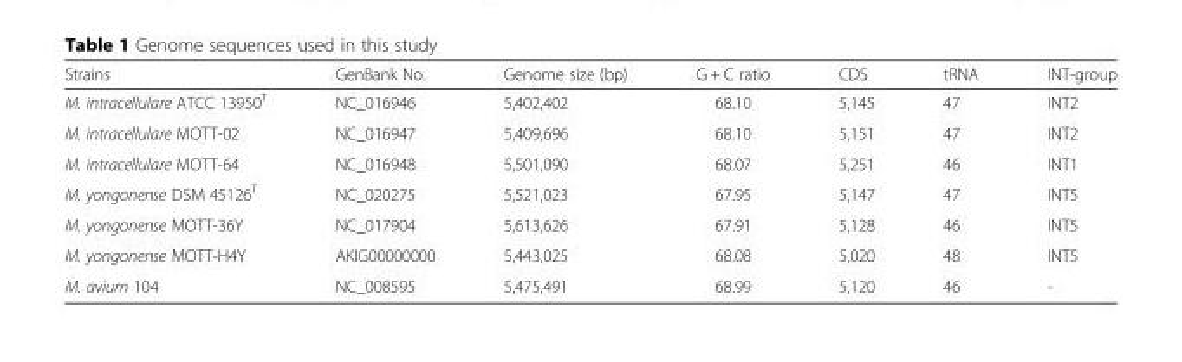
<table><thead><tr><td>Strains</td><td>GenBank No.</td><td>Genome size (bp)</td><td>G + C ratio</td><td>CDS</td><td>tRNA</td><td>INT-group</td></tr></thead><tbody><tr><td>M. intracellulare ATCC 13950<sup>T</sup></td><td>NC_016946</td><td>5,402,402</td><td>68.10</td><td>5,145</td><td>47</td><td>INT2</td></tr><tr><td>M. intracellulare MOTT-02</td><td>NC_016947</td><td>5,409,696</td><td>68.10</td><td>5,151</td><td>47</td><td>INT2</td></tr><tr><td>M. intracellulare MOTT-64</td><td>NC_016948</td><td>5,501,090</td><td>68.07</td><td>5,251</td><td>46</td><td>INT1</td></tr><tr><td>M. yongonense DSM 45126<sup>T</sup></td><td>NC_020275</td><td>5,521,023</td><td>67.95</td><td>5,147</td><td>47</td><td>INT5</td></tr><tr><td>M. yongonense MOTT-36Y</td><td>NC_017904</td><td>5,613,626</td><td>67.91</td><td>5,128</td><td>46</td><td>INT5</td></tr><tr><td>M. yongonense MOTT-H4Y</td><td>AKIG00000000</td><td>5,443,025</td><td>68.08</td><td>5,020</td><td>48</td><td>INT5</td></tr><tr><td>M. avium 104</td><td>NC_008595</td><td>5,475,491</td><td>68.99</td><td>5,120</td><td>46</td><td>-</td></tr></tbody></table>